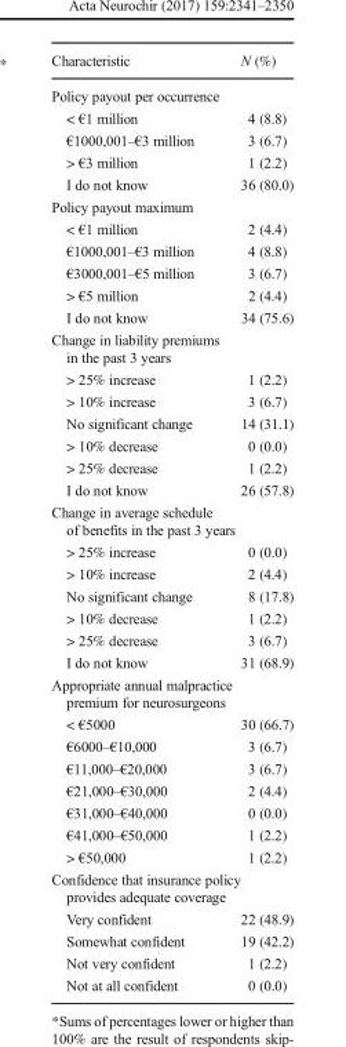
<table><thead><tr><td>Characteristic</td><td>N (%)</td></tr></thead><tbody><tr><td colspan="2">Policy payout per occurrence</td></tr><tr><td>&lt; €1 million</td><td>4 (8.8)</td></tr><tr><td>€1000,001–€3 million</td><td>3 (6.7)</td></tr><tr><td>&gt; €3 million</td><td>1 (2.2)</td></tr><tr><td>I do not know</td><td>36 (80.0)</td></tr><tr><td colspan="2">Policy payout maximum</td></tr><tr><td>&lt; €1 million</td><td>2 (4.4)</td></tr><tr><td>€1000,001–€3 million</td><td>4 (8.8)</td></tr><tr><td>€3000,001–€5 million</td><td>3 (6.7)</td></tr><tr><td>&gt; €5 million</td><td>2 (4.4)</td></tr><tr><td>I do not know</td><td>34 (75.6)</td></tr><tr><td colspan="2">Change in liability premiums in the past 3 years</td></tr><tr><td>&gt; 25% increase</td><td>1 (2.2)</td></tr><tr><td>&gt; 10% increase</td><td>3 (6.7)</td></tr><tr><td>No significant change</td><td>14 (31.1)</td></tr><tr><td>&gt; 10% decrease</td><td>0 (0.0)</td></tr><tr><td>&gt; 25% decrease</td><td>1 (2.2)</td></tr><tr><td>I do not know</td><td>26 (57.8)</td></tr><tr><td colspan="2">Change in average schedule of benefits in the past 3 years</td></tr><tr><td>&gt; 25% increase</td><td>0 (0.0)</td></tr><tr><td>&gt; 10% increase</td><td>2 (4.4)</td></tr><tr><td>No significant change</td><td>8 (17.8)</td></tr><tr><td>&gt; 10% decrease</td><td>1 (2.2)</td></tr><tr><td>&gt; 25% decrease</td><td>3 (6.7)</td></tr><tr><td>I do not know</td><td>31 (68.9)</td></tr><tr><td colspan="2">Appropriate annual malpractice premium for neurosurgeons</td></tr><tr><td>&lt; €5000</td><td>30 (66.7)</td></tr><tr><td>€6000–€10,000</td><td>3 (6.7)</td></tr><tr><td>€11,000–€20,000</td><td>3 (6.7)</td></tr><tr><td>€21,000–€30,000</td><td>2 (4.4)</td></tr><tr><td>€31,000–€40,000</td><td>0 (0.0)</td></tr><tr><td>€41,000–€50,000</td><td>1 (2.2)</td></tr><tr><td>&gt; €50,000</td><td>1 (2.2)</td></tr><tr><td colspan="2">Confidence that insurance policy provides adequate coverage</td></tr><tr><td>Very confident</td><td>22 (48.9)</td></tr><tr><td>Somewhat confident</td><td>19 (42.2)</td></tr><tr><td>Not very confident</td><td>1 (2.2)</td></tr><tr><td>Not at all confident</td><td>0 (0.0)</td></tr></tbody></table>